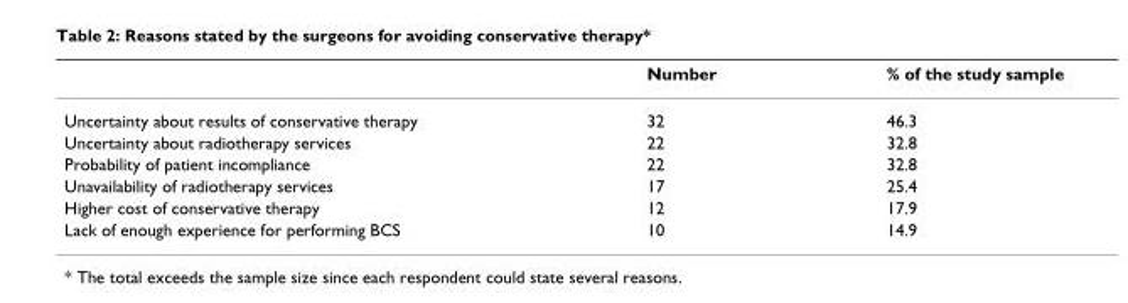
<table><thead><tr><td></td><td>Number</td><td>% of the study sample</td></tr></thead><tbody><tr><td>Uncertainty about results of conservative therapy</td><td>32</td><td>46.3</td></tr><tr><td>Uncertainty about radiotherapy services</td><td>22</td><td>32.8</td></tr><tr><td>Probability of patient incompliance</td><td>22</td><td>32.8</td></tr><tr><td>Unavailability of radiotherapy services</td><td>17</td><td>25.4</td></tr><tr><td>Higher cost of conservative therapy</td><td>12</td><td>17.9</td></tr><tr><td>Lack of enough experience for performing BCS</td><td>10</td><td>14.9</td></tr></tbody></table>